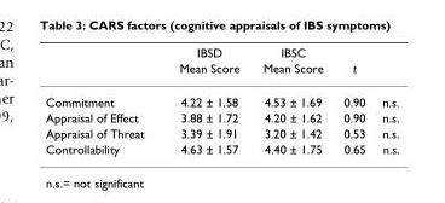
<table><thead><tr><td rowspan="2"></td><td rowspan="2">IBSD Mean Score</td><td rowspan="2">IBSC Mean Score</td><td rowspan="2">t</td><td rowspan="2"></td></tr><tr></tr></thead><tbody><tr><td>Commitment</td><td>4.22 ± 1.58</td><td>4.53 ± 1.69</td><td>0.90</td><td>n.s.</td></tr><tr><td>Appraisal of Effect</td><td>3.88 ± 1.72</td><td>4.20 ± 1.62</td><td>0.90</td><td>n.s.</td></tr><tr><td>Appraisal of Threat</td><td>3.39 ± 1.91</td><td>3.20 ± 1.42</td><td>0.53</td><td>n.s.</td></tr><tr><td>Controllability</td><td>4.63 ± 1.57</td><td>4.40 ± 1.75</td><td>0.65</td><td>n.s.</td></tr></tbody></table>